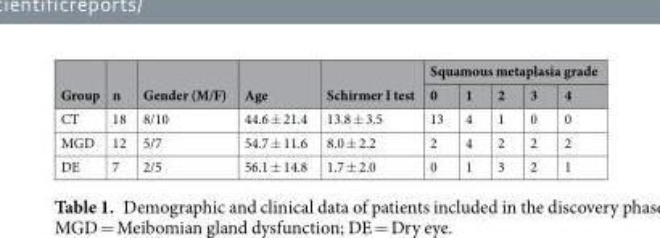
<table><thead><tr><td rowspan="2">Group</td><td rowspan="2">n</td><td rowspan="2">Gender (M/F)</td><td rowspan="2">Age</td><td rowspan="2">Schirmer I test</td><td colspan="5">Squamous metaplasia grade</td></tr><tr><td>0</td><td>1</td><td>2</td><td>3</td><td>4</td></tr></thead><tbody><tr><td>CT</td><td>18</td><td>8/10</td><td>44.6 ± 21.4</td><td>13.8 ± 3.5</td><td>13</td><td>4</td><td>1</td><td>0</td><td>0</td></tr><tr><td>MGD</td><td>12</td><td>5/7</td><td>54.7 ± 11.6</td><td>8.0 ± 2.2</td><td>2</td><td>4</td><td>2</td><td>2</td><td>2</td></tr><tr><td>DE</td><td>7</td><td>2/5</td><td>56.1 ± 14.8</td><td>1.7 ± 2.0</td><td>0</td><td>1</td><td>3</td><td>2</td><td>1</td></tr></tbody></table>